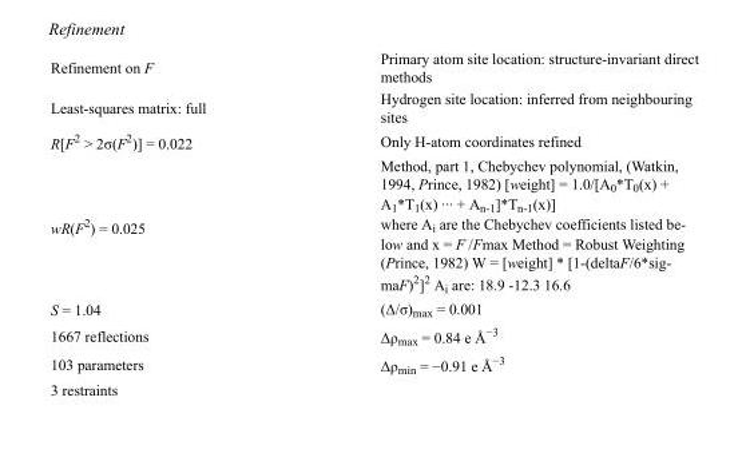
<table><tbody><tr><td>Refinement on F</td><td>Primary atom site location: structure-invariant direct methods</td></tr><tr><td>Least-squares matrix: full</td><td>Hydrogen site location: inferred from neighbouring sites</td></tr><tr><td>R[F<sup>2</sup> &gt; 2σ(F<sup>2</sup>)] = 0.022</td><td>Only H-atom coordinates refined</td></tr><tr><td>wR(F<sup>2</sup>) = 0.025</td><td>Method, part 1, Chebychev polynomial, (Watkin, 1994, Prince, 1982) [weight] = 1.0/[A0*T0(x) + A1*T1(x) ··· + An-1]*Tn-1(x)] where Ai are the Chebychev coefficients listed be- low and x = F /Fmax Method = Robust Weighting (Prince, 1982) W = [weight] * [1-(deltaF/6*sig- maF)2]2 Ai are: 18.9 -12.3 16.6</td></tr><tr><td>S = 1.04</td><td>(Δ/σ)<sub>max</sub> = 0.001</td></tr><tr><td>1667 reflections</td><td>Δρ<sub>max</sub> = 0.84 e Å<sup>−3</sup></td></tr><tr><td>103 parameters</td><td>Δρ<sub>min</sub> = −0.91 e Å<sup>−3</sup></td></tr><tr><td>3 restraints</td><td></td></tr></tbody></table>